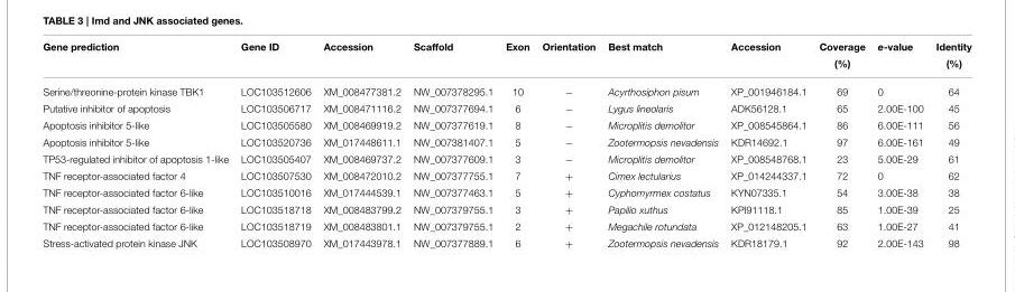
<table><thead><tr><td>Gene prediction</td><td>Gene ID</td><td>Accession</td><td>Scaffold</td><td>Exon</td><td>Orientation</td><td>Best match</td><td>Accession</td><td>Coverage (%)</td><td>e-value</td><td>Identity (%)</td></tr></thead><tbody><tr><td>Serine/threonine-protein kinase TBK1</td><td>LOC103512606</td><td>XM_008477381.2</td><td>NW_007378295.1</td><td>10</td><td>−</td><td>Acyrthosiphon pisum</td><td>XP_001946184.1</td><td>69</td><td>0</td><td>64</td></tr><tr><td>Putative inhibitor of apoptosis</td><td>LOC103506717</td><td>XM_008471116.2</td><td>NW_007377694.1</td><td>6</td><td>−</td><td>Lygus lineolaris</td><td>ADK56128.1</td><td>65</td><td>2.00E-100</td><td>45</td></tr><tr><td>Apoptosis inhibitor 5-like</td><td>LOC103505580</td><td>XM_008469919.2</td><td>NW_007377619.1</td><td>8</td><td>−</td><td>Microplitis demolitor</td><td>XP_008545864.1</td><td>86</td><td>6.00E-111</td><td>56</td></tr><tr><td>Apoptosis inhibitor 5-like</td><td>LOC103520736</td><td>XM_017448611.1</td><td>NW_007381407.1</td><td>5</td><td>−</td><td>Zootermopsis nevadensis</td><td>KDR14692.1</td><td>97</td><td>6.00E-161</td><td>49</td></tr><tr><td>TP53-regulated inhibitor of apoptosis 1-like</td><td>LOC103505407</td><td>XM_008469737.2</td><td>NW_007377609.1</td><td>3</td><td>−</td><td>Microplitis demolitor</td><td>XP_008548768.1</td><td>23</td><td>5.00E-29</td><td>61</td></tr><tr><td>TNF receptor-associated factor 4</td><td>LOC103507530</td><td>XM_008472010.2</td><td>NW_007377755.1</td><td>7</td><td>+</td><td>Cimex lectularius</td><td>XP_014244337.1</td><td>72</td><td>0</td><td>62</td></tr><tr><td>TNF receptor-associated factor 6-like</td><td>LOC103510016</td><td>XM_017444539.1</td><td>NW_007377463.1</td><td>5</td><td>+</td><td>Cyphomyrmex costatus</td><td>KYN07335.1</td><td>54</td><td>3.00E-38</td><td>38</td></tr><tr><td>TNF receptor-associated factor 6-like</td><td>LOC103518718</td><td>XM_008483799.2</td><td>NW_007379755.1</td><td>3</td><td>+</td><td>Papilio xuthus</td><td>KPI91118.1</td><td>85</td><td>1.00E-39</td><td>25</td></tr><tr><td>TNF receptor-associated factor 6-like</td><td>LOC103518719</td><td>XM_008483801.1</td><td>NW_007379755.1</td><td>2</td><td>+</td><td>Megachile rotundata</td><td>XP_012148205.1</td><td>63</td><td>1.00E-27</td><td>41</td></tr><tr><td>Stress-activated protein kinase JNK</td><td>LOC103508970</td><td>XM_017443978.1</td><td>NW_007377889.1</td><td>6</td><td>+</td><td>Zootermopsis nevadensis</td><td>KDR18179.1</td><td>92</td><td>2.00E-143</td><td>98</td></tr></tbody></table>